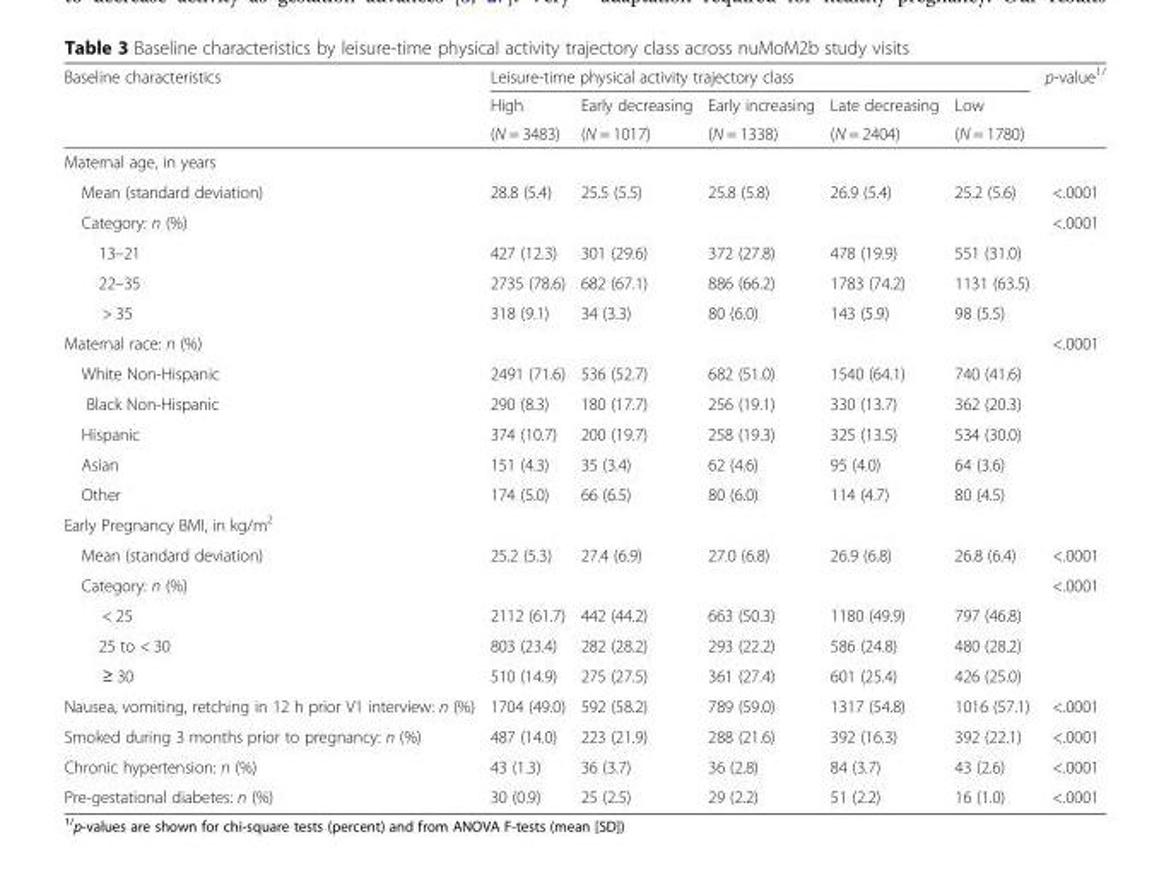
<table><thead><tr><td rowspan="3">Baseline characteristics</td><td colspan="5">Leisure-time physical activity trajectory class</td><td rowspan="3">p-value<sup>1/</sup></td></tr><tr><td rowspan="2">High (N = 3483)</td><td rowspan="2">Early decreasing (N = 1017)</td><td rowspan="2">Early increasing (N = 1338)</td><td rowspan="2">Late decreasing (N = 2404)</td><td rowspan="2">Low (N = 1780)</td></tr><tr></tr></thead><tbody><tr><td colspan="7">Maternal age, in years</td></tr><tr><td>Mean (standard deviation)</td><td>28.8 (5.4)</td><td>25.5 (5.5)</td><td>25.8 (5.8)</td><td>26.9 (5.4)</td><td>25.2 (5.6)</td><td>&lt;.0001</td></tr><tr><td colspan="6">Category: n (%)</td><td rowspan="4">&lt;.0001</td></tr><tr><td>13–21</td><td>427 (12.3)</td><td>301 (29.6)</td><td>372 (27.8)</td><td>478 (19.9)</td><td>551 (31.0)</td></tr><tr><td>22–35</td><td>2735 (78.6)</td><td>682 (67.1)</td><td>886 (66.2)</td><td>1783 (74.2)</td><td>1131 (63.5)</td></tr><tr><td>&gt; 35</td><td>318 (9.1)</td><td>34 (3.3)</td><td>80 (6.0)</td><td>143 (5.9)</td><td>98 (5.5)</td></tr><tr><td colspan="6">Maternal race: n (%)</td><td rowspan="6">&lt;.0001</td></tr><tr><td>White Non-Hispanic</td><td>2491 (71.6)</td><td>536 (52.7)</td><td>682 (51.0)</td><td>1540 (64.1)</td><td>740 (41.6)</td></tr><tr><td>Black Non-Hispanic</td><td>290 (8.3)</td><td>180 (17.7)</td><td>256 (19.1)</td><td>330 (13.7)</td><td>362 (20.3)</td></tr><tr><td>Hispanic</td><td>374 (10.7)</td><td>200 (19.7)</td><td>258 (19.3)</td><td>325 (13.5)</td><td>534 (30.0)</td></tr><tr><td>Asian</td><td>151 (4.3)</td><td>35 (3.4)</td><td>62 (4.6)</td><td>95 (4.0)</td><td>64 (3.6)</td></tr><tr><td>Other</td><td>174 (5.0)</td><td>66 (6.5)</td><td>80 (6.0)</td><td>114 (4.7)</td><td>80 (4.5)</td></tr><tr><td colspan="7">Early Pregnancy BMI, in kg/m<sup>2</sup></td></tr><tr><td>Mean (standard deviation)</td><td>25.2 (5.3)</td><td>27.4 (6.9)</td><td>27.0 (6.8)</td><td>26.9 (6.8)</td><td>26.8 (6.4)</td><td>&lt;.0001</td></tr><tr><td colspan="6">Category: n (%)</td><td rowspan="4">&lt;.0001</td></tr><tr><td>&lt; 25</td><td>2112 (61.7)</td><td>442 (44.2)</td><td>663 (50.3)</td><td>1180 (49.9)</td><td>797 (46.8)</td></tr><tr><td>25 to &lt; 30</td><td>803 (23.4)</td><td>282 (28.2)</td><td>293 (22.2)</td><td>586 (24.8)</td><td>480 (28.2)</td></tr><tr><td>≥ 30</td><td>510 (14.9)</td><td>275 (27.5)</td><td>361 (27.4)</td><td>601 (25.4)</td><td>426 (25.0)</td></tr><tr><td>Nausea, vomiting, retching in 12 h prior V1 interview: n (%)</td><td>1704 (49.0)</td><td>592 (58.2)</td><td>789 (59.0)</td><td>1317 (54.8)</td><td>1016 (57.1)</td><td>&lt;.0001</td></tr><tr><td>Smoked during 3 months prior to pregnancy: n (%)</td><td>487 (14.0)</td><td>223 (21.9)</td><td>288 (21.6)</td><td>392 (16.3)</td><td>392 (22.1)</td><td>&lt;.0001</td></tr><tr><td>Chronic hypertension: n (%)</td><td>43 (1.3)</td><td>36 (3.7)</td><td>36 (2.8)</td><td>84 (3.7)</td><td>43 (2.6)</td><td>&lt;.0001</td></tr><tr><td>Pre-gestational diabetes: n (%)</td><td>30 (0.9)</td><td>25 (2.5)</td><td>29 (2.2)</td><td>51 (2.2)</td><td>16 (1.0)</td><td>&lt;.0001</td></tr></tbody></table>